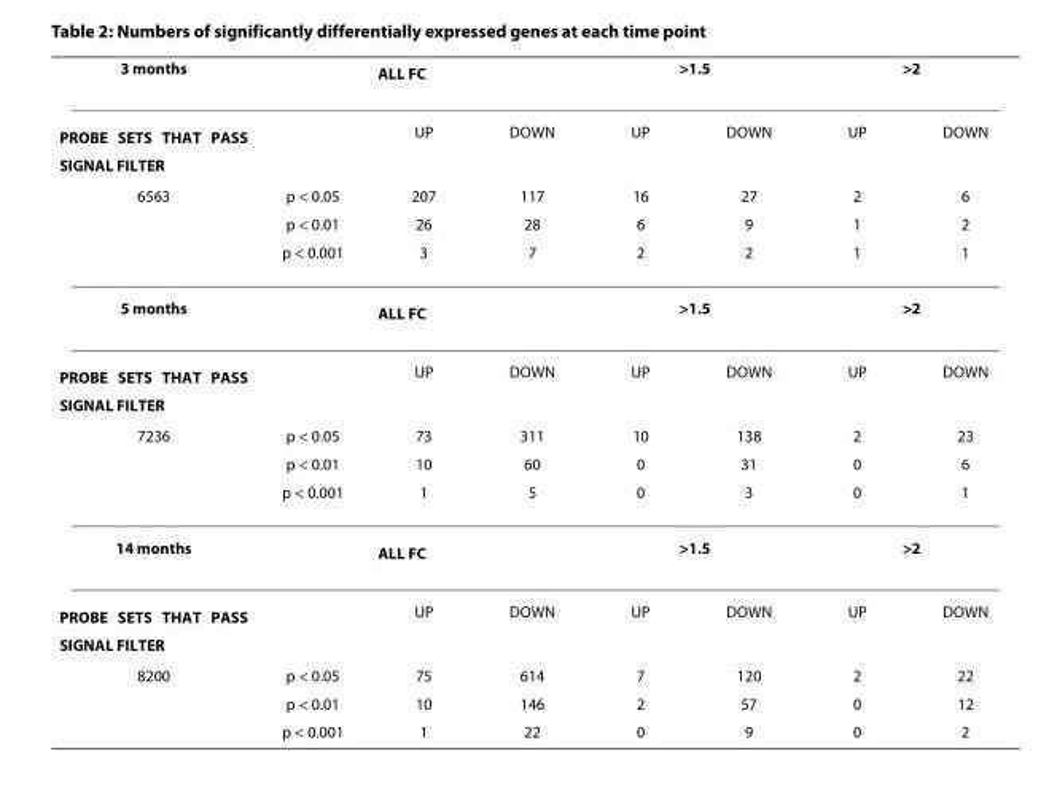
<table><thead><tr><td rowspan="2">3 months PROBE SETS THAT PASS SIGNAL FILTER</td><td rowspan="2"></td><td colspan="2">ALL FC</td><td colspan="2">&gt;1.5</td><td colspan="2">&gt;2</td></tr><tr><td>UP</td><td>DOWN</td><td>UP</td><td>DOWN</td><td>UP</td><td>DOWN</td></tr></thead><tbody><tr><td rowspan="3">6563</td><td>p &lt; 0.05</td><td>207</td><td>117</td><td>16</td><td>27</td><td>2</td><td>6</td></tr><tr><td>p &lt; 0.01</td><td>26</td><td>28</td><td>6</td><td>9</td><td>1</td><td>2</td></tr><tr><td>p &lt; 0.001</td><td>3</td><td>7</td><td>2</td><td>2</td><td>1</td><td>1</td></tr><tr><td>5 months</td><td></td><td colspan="2">ALL FC</td><td colspan="2">&gt;1.5</td><td colspan="2">&gt;2</td></tr><tr><td>PROBE SETS THAT PASS SIGNAL FILTER</td><td></td><td>UP</td><td>DOWN</td><td>UP</td><td>DOWN</td><td>UP</td><td>DOWN</td></tr><tr><td rowspan="3">7236</td><td>p &lt; 0.05</td><td>73</td><td>311</td><td>10</td><td>138</td><td>2</td><td>23</td></tr><tr><td>p &lt; 0.01</td><td>10</td><td>60</td><td>0</td><td>31</td><td>0</td><td>6</td></tr><tr><td>p &lt; 0.001</td><td>1</td><td>5</td><td>0</td><td>3</td><td>0</td><td>1</td></tr><tr><td>14 months</td><td></td><td colspan="2">ALL FC</td><td colspan="2">&gt;1.5</td><td colspan="2">&gt;2</td></tr><tr><td>PROBE SETS THAT PASS SIGNAL FILTER</td><td></td><td>UP</td><td>DOWN</td><td>UP</td><td>DOWN</td><td>UP</td><td>DOWN</td></tr><tr><td rowspan="3">8200</td><td>p &lt; 0.05</td><td>75</td><td>614</td><td>7</td><td>120</td><td>2</td><td>22</td></tr><tr><td>p &lt; 0.01</td><td>10</td><td>146</td><td>2</td><td>57</td><td>0</td><td>12</td></tr><tr><td>p &lt; 0.001</td><td>1</td><td>22</td><td>0</td><td>9</td><td>0</td><td>2</td></tr></tbody></table>